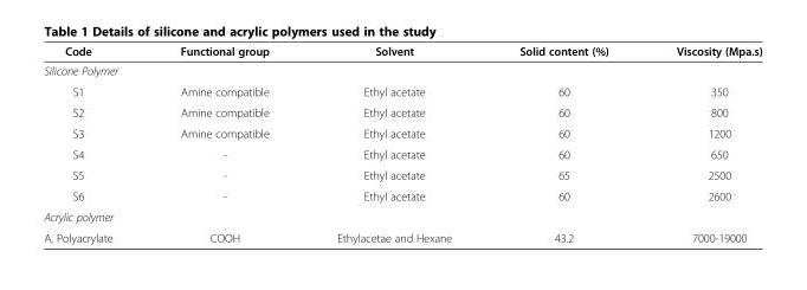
<table><thead><tr><td>Code</td><td>Functional group</td><td>Solvent</td><td>Solid content (%)</td><td>Viscosity (Mpa.s)</td></tr></thead><tbody><tr><td colspan="5">Silicone Polymer</td></tr><tr><td>S1</td><td>Amine compatible</td><td>Ethyl acetate</td><td>60</td><td>350</td></tr><tr><td>S2</td><td>Amine compatible</td><td>Ethyl acetate</td><td>60</td><td>800</td></tr><tr><td>S3</td><td>Amine compatible</td><td>Ethyl acetate</td><td>60</td><td>1200</td></tr><tr><td>S4</td><td>-</td><td>Ethyl acetate</td><td>60</td><td>650</td></tr><tr><td>S5</td><td>-</td><td>Ethyl acetate</td><td>65</td><td>2500</td></tr><tr><td>S6</td><td>-</td><td>Ethyl acetate</td><td>60</td><td>2600</td></tr><tr><td colspan="5">Acrylic polymer</td></tr><tr><td>A, Polyacrylate</td><td>COOH</td><td>Ethylacetae and Hexane</td><td>43.2</td><td>7000-19000</td></tr></tbody></table>